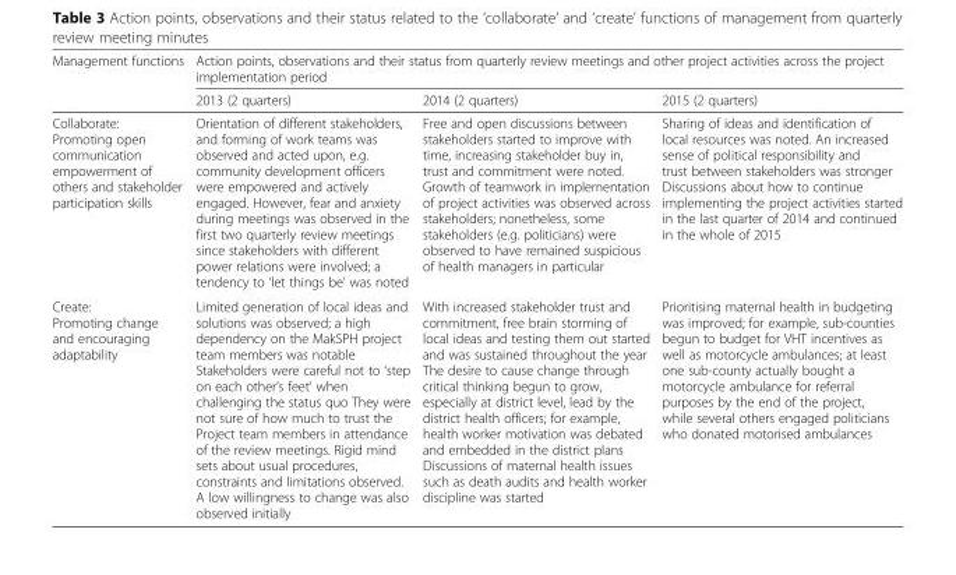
<table><thead><tr><td rowspan="2">Management functions</td><td colspan="3">Action points, observations and their status from quarterly review meetings and other project activities across the project implementation period</td></tr><tr><td>2013 (2 quarters)</td><td>2014 (2 quarters)</td><td>2015 (2 quarters)</td></tr></thead><tbody><tr><td>Collaborate: Promoting open communication empowerment of others and stakeholder participation skills</td><td>Orientation of different stakeholders, and forming of work teams was observed and acted upon, e.g. community development officers were empowered and actively engaged. However, fear and anxiety during meetings was observed in the first two quarterly review meetings since stakeholders with different power relations were involved; a tendency to ‘let things be’ was noted</td><td>Free and open discussions between stakeholders started to improve with time, increasing stakeholder buy in, trust and commitment were noted. Growth of teamwork in implementation of project activities was observed across stakeholders; nonetheless, some stakeholders (e.g. politicians) were observed to have remained suspicious of health managers in particular</td><td>Sharing of ideas and identification of local resources was noted. An increased sense of political responsibility and trust between stakeholders was stronger Discussions about how to continue implementing the project activities started in the last quarter of 2014 and continued in the whole of 2015</td></tr><tr><td>Create: Promoting change and encouraging adaptability</td><td>Limited generation of local ideas and solutions was observed; a high dependency on the MakSPH project team members was notable Stakeholders were careful not to ‘step on each other’s feet’ when challenging the status quo They were not sure of how much to trust the Project team members in attendance of the review meetings. Rigid mind sets about usual procedures, constraints and limitations observed. A low willingness to change was also observed initially</td><td>With increased stakeholder trust and commitment, free brain storming of local ideas and testing them out started and was sustained throughout the year The desire to cause change through critical thinking begun to grow, especially at district level, lead by the district health officers; for example, health worker motivation was debated and embedded in the district plans Discussions of maternal health issues such as death audits and health worker discipline was started</td><td>Prioritising maternal health in budgeting was improved; for example, sub-counties begun to budget for VHT incentives as well as motorcycle ambulances; at least one sub-county actually bought a motorcycle ambulance for referral purposes by the end of the project, while several others engaged politicians who donated motorised ambulances</td></tr></tbody></table>